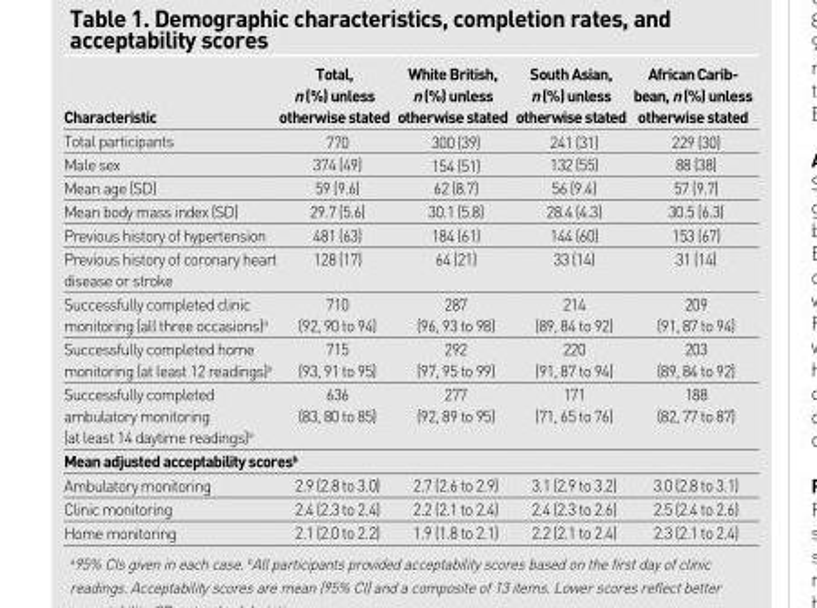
<table><thead><tr><td>Characteristic</td><td>Total, n (%) unless otherwise stated</td><td>White British, n (%) unless otherwise stated</td><td>South Asian, n (%) unless otherwise stated</td><td>African Carib- bean, n (%) unless otherwise stated</td></tr></thead><tbody><tr><td>Total participants</td><td>770</td><td>300 (39)</td><td>241 (31)</td><td>229 (30)</td></tr><tr><td>Male sex</td><td>374 (49)</td><td>154 (51)</td><td>132 (55)</td><td>88 (38)</td></tr><tr><td>Mean age (SD)</td><td>59 (9.6)</td><td>62 (8.7)</td><td>56 (9.4)</td><td>57 (9.7)</td></tr><tr><td>Mean body mass index (SD)</td><td>29.7 (5.6)</td><td>30.1 (5.8)</td><td>28.4 (4.3)</td><td>30.5 (6.3)</td></tr><tr><td>Previous history of hypertension</td><td>481 (63)</td><td>184 (61)</td><td>144 (60)</td><td>153 (67)</td></tr><tr><td>Previous history of coronary heart disease or stroke</td><td>128 (17)</td><td>64 (21)</td><td>33 (14)</td><td>31 (14)</td></tr><tr><td>Successfully completed clinic monitoring (all three occasions)<sup>a</sup></td><td>710 (92, 90 to 94)</td><td>287 (96, 93 to 98)</td><td>214 (89, 84 to 92)</td><td>209 (91, 87 to 94)</td></tr><tr><td>Successfully completed home monitoring (at least 12 readings)<sup>a</sup></td><td>715 (93, 91 to 95)</td><td>292 (97, 95 to 99)</td><td>220 (91, 87 to 94)</td><td>203 (89, 84 to 92)</td></tr><tr><td>Successfully completed ambulatory monitoring (at least 14 daytime readings)<sup>a</sup></td><td>636 (83, 80 to 85)</td><td>277 (92, 89 to 95)</td><td>171 (71, 65 to 76)</td><td>188 (82, 77 to 87)</td></tr><tr><td colspan="5">Mean adjusted acceptability scores<sup>b</sup></td></tr><tr><td>Ambulatory monitoring</td><td>2.9 (2.8 to 3.0)</td><td>2.7 (2.6 to 2.9)</td><td>3.1 (2.9 to 3.2)</td><td>3.0 (2.8 to 3.1)</td></tr><tr><td>Clinic monitoring</td><td>2.4 (2.3 to 2.4)</td><td>2.2 (2.1 to 2.4)</td><td>2.4 (2.3 to 2.6)</td><td>2.5 (2.4 to 2.6)</td></tr><tr><td>Home monitoring</td><td>2.1 (2.0 to 2.2)</td><td>1.9 (1.8 to 2.1)</td><td>2.2 (2.1 to 2.4)</td><td>2.3 (2.1 to 2.4)</td></tr></tbody></table>